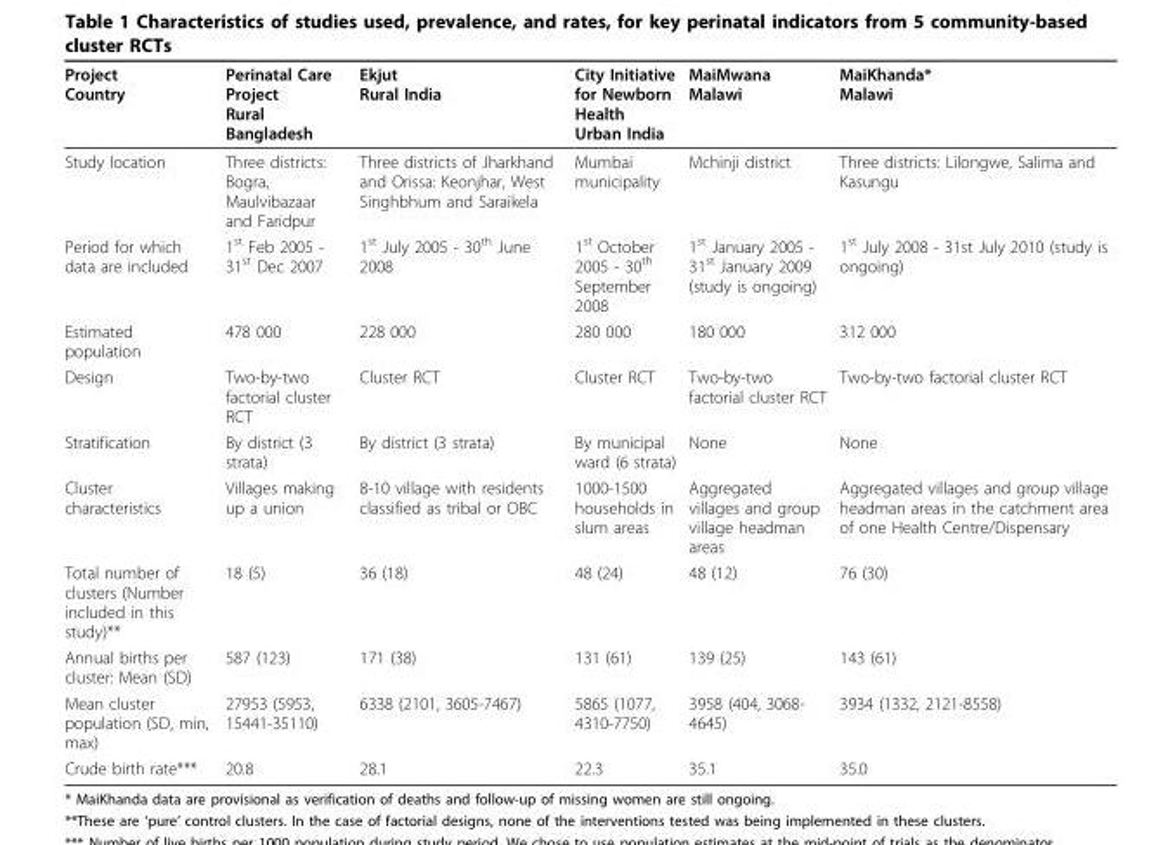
<table><thead><tr><td>Project Country</td><td>Perinatal Care Project Rural Bangladesh</td><td>Ekjut Rural India</td><td>City Initiative for Newborn Health Urban India</td><td>MaiMwana Malawi</td><td>MaiKhanda* Malawi</td></tr></thead><tbody><tr><td>Study location</td><td>Three districts: Bogra, Maulvibazaar and Faridpur</td><td>Three districts of Jharkhand and Orissa: Keonjhar, West Singhbhum and Saraikela</td><td>Mumbai municipality</td><td>Mchinji district</td><td>Three districts: Lilongwe, Salima and Kasungu</td></tr><tr><td>Period for which data are included</td><td>1<sup>st</sup> Feb 2005 - 31<sup>st</sup> Dec 2007</td><td>1<sup>st</sup> July 2005 - 30<sup>th</sup> June 2008</td><td>1<sup>st</sup> October 2005 - 30<sup>th</sup> September 2008</td><td>1<sup>st</sup> January 2005 - 31<sup>st</sup> January 2009 (study is ongoing)</td><td>1<sup>st</sup> July 2008 - 31st July 2010 (study is ongoing)</td></tr><tr><td>Estimated population</td><td>478 000</td><td>228 000</td><td>280 000</td><td>180 000</td><td>312 000</td></tr><tr><td>Design</td><td>Two-by-two factorial cluster RCT</td><td>Cluster RCT</td><td>Cluster RCT</td><td>Two-by-two factorial cluster RCT</td><td>Two-by-two factorial cluster RCT</td></tr><tr><td>Stratification</td><td>By district (3 strata)</td><td>By district (3 strata)</td><td>By municipal ward (6 strata)</td><td>None</td><td>None</td></tr><tr><td>Cluster characteristics</td><td>Villages making up a union</td><td>8-10 village with residents classified as tribal or OBC</td><td>1000-1500 households in slum areas</td><td>Aggregated villages and group village headman areas</td><td>Aggregated villages and group village headman areas in the catchment area of one Health Centre/Dispensary</td></tr><tr><td>Total number of clusters (Number included in this study)**</td><td>18 (5)</td><td>36 (18)</td><td>48 (24)</td><td>48 (12)</td><td>76 (30)</td></tr><tr><td>Annual births per cluster: Mean (SD)</td><td>587 (123)</td><td>171 (38)</td><td>131 (61)</td><td>139 (25)</td><td>143 (61)</td></tr><tr><td>Mean cluster population (SD, min, max)</td><td>27953 (5953, 15441-35110)</td><td>6338 (2101, 3605-7467)</td><td>5865 (1077, 4310-7750)</td><td>3958 (404, 3068- 4645)</td><td>3934 (1332, 2121-8558)</td></tr><tr><td>Crude birth rate***</td><td>20.8</td><td>28.1</td><td>22.3</td><td>35.1</td><td>35.0</td></tr></tbody></table>